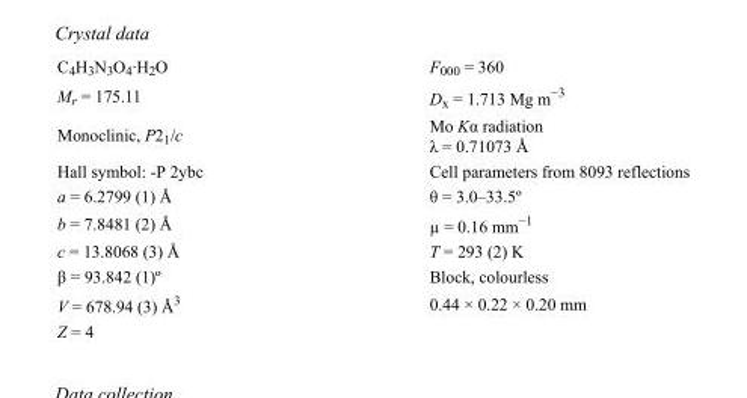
<table><tbody><tr><td>C<sub>4</sub>H<sub>3</sub>N<sub>3</sub>O<sub>4</sub>·H<sub>2</sub>O</td><td>F<sub>000</sub> = 360</td></tr><tr><td>M<sub>r</sub> = 175.11</td><td>D<sub>x</sub> = 1.713 Mg m<sup>−3</sup></td></tr><tr><td>Monoclinic, P2<sub>1</sub>/c</td><td>Mo Kα radiation λ = 0.71073 Å</td></tr><tr><td>Hall symbol: -P 2ybc</td><td>Cell parameters from 8093 reflections</td></tr><tr><td>a = 6.2799 (1) Å</td><td>θ = 3.0–33.5º</td></tr><tr><td>b = 7.8481 (2) Å</td><td>µ = 0.16 mm<sup>−1</sup></td></tr><tr><td>c = 13.8068 (3) Å</td><td>T = 293 (2) K</td></tr><tr><td>β = 93.842 (1)º</td><td>Block, colourless</td></tr><tr><td>V = 678.94 (3) Å<sup>3</sup></td><td>0.44 × 0.22 × 0.20 mm</td></tr><tr><td>Z = 4</td><td></td></tr></tbody></table>